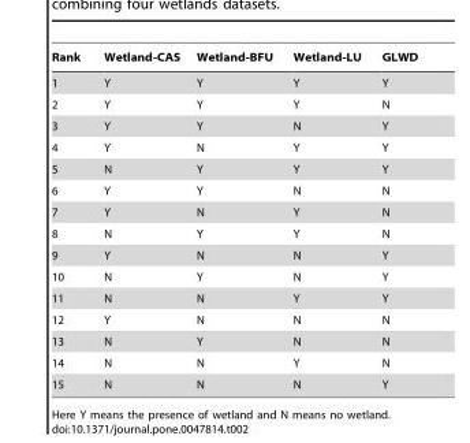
<table><thead><tr><td>Rank</td><td>Wetland-CAS</td><td>Wetland-BFU</td><td>Wetland-LU</td><td>GLWD</td></tr></thead><tbody><tr><td>1</td><td>Y</td><td>Y</td><td>Y</td><td>Y</td></tr><tr><td>2</td><td>Y</td><td>Y</td><td>Y</td><td>N</td></tr><tr><td>3</td><td>Y</td><td>Y</td><td>N</td><td>Y</td></tr><tr><td>4</td><td>Y</td><td>N</td><td>Y</td><td>Y</td></tr><tr><td>5</td><td>N</td><td>Y</td><td>Y</td><td>Y</td></tr><tr><td>6</td><td>Y</td><td>Y</td><td>N</td><td>N</td></tr><tr><td>7</td><td>Y</td><td>N</td><td>Y</td><td>N</td></tr><tr><td>8</td><td>N</td><td>Y</td><td>Y</td><td>N</td></tr><tr><td>9</td><td>Y</td><td>N</td><td>N</td><td>Y</td></tr><tr><td>10</td><td>N</td><td>Y</td><td>N</td><td>Y</td></tr><tr><td>11</td><td>N</td><td>N</td><td>Y</td><td>Y</td></tr><tr><td>12</td><td>Y</td><td>N</td><td>N</td><td>N</td></tr><tr><td>13</td><td>N</td><td>Y</td><td>N</td><td>N</td></tr><tr><td>14</td><td>N</td><td>N</td><td>Y</td><td>N</td></tr><tr><td>15</td><td>N</td><td>N</td><td>N</td><td>Y</td></tr></tbody></table>